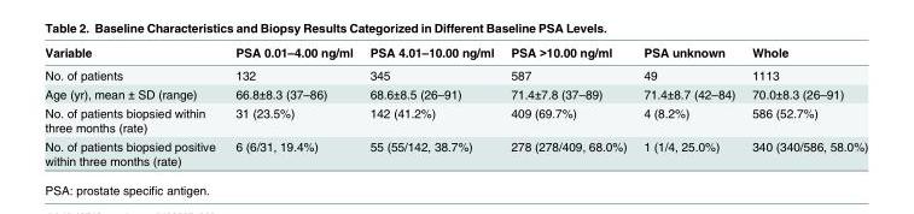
<table><thead><tr><td>Variable</td><td>PSA 0.01–4.00 ng/ml</td><td>PSA 4.01–10.00 ng/ml</td><td>PSA &gt;10.00 ng/ml</td><td>PSA unknown</td><td>Whole</td></tr></thead><tbody><tr><td>No. of patients</td><td>132</td><td>345</td><td>587</td><td>49</td><td>1113</td></tr><tr><td>Age (yr), mean ± SD (range)</td><td>66.8±8.3 (37–86)</td><td>68.6±8.5 (26–91)</td><td>71.4±7.8 (37–89)</td><td>71.4±8.7 (42–84)</td><td>70.0±8.3 (26–91)</td></tr><tr><td>No. of patients biopsied within three months (rate)</td><td>31 (23.5%)</td><td>142 (41.2%)</td><td>409 (69.7%)</td><td>4 (8.2%)</td><td>586 (52.7%)</td></tr><tr><td>No. of patients biopsied positive within three months (rate)</td><td>6 (6/31, 19.4%)</td><td>55 (55/142, 38.7%)</td><td>278 (278/409, 68.0%)</td><td>1 (1/4, 25.0%)</td><td>340 (340/586, 58.0%)</td></tr></tbody></table>